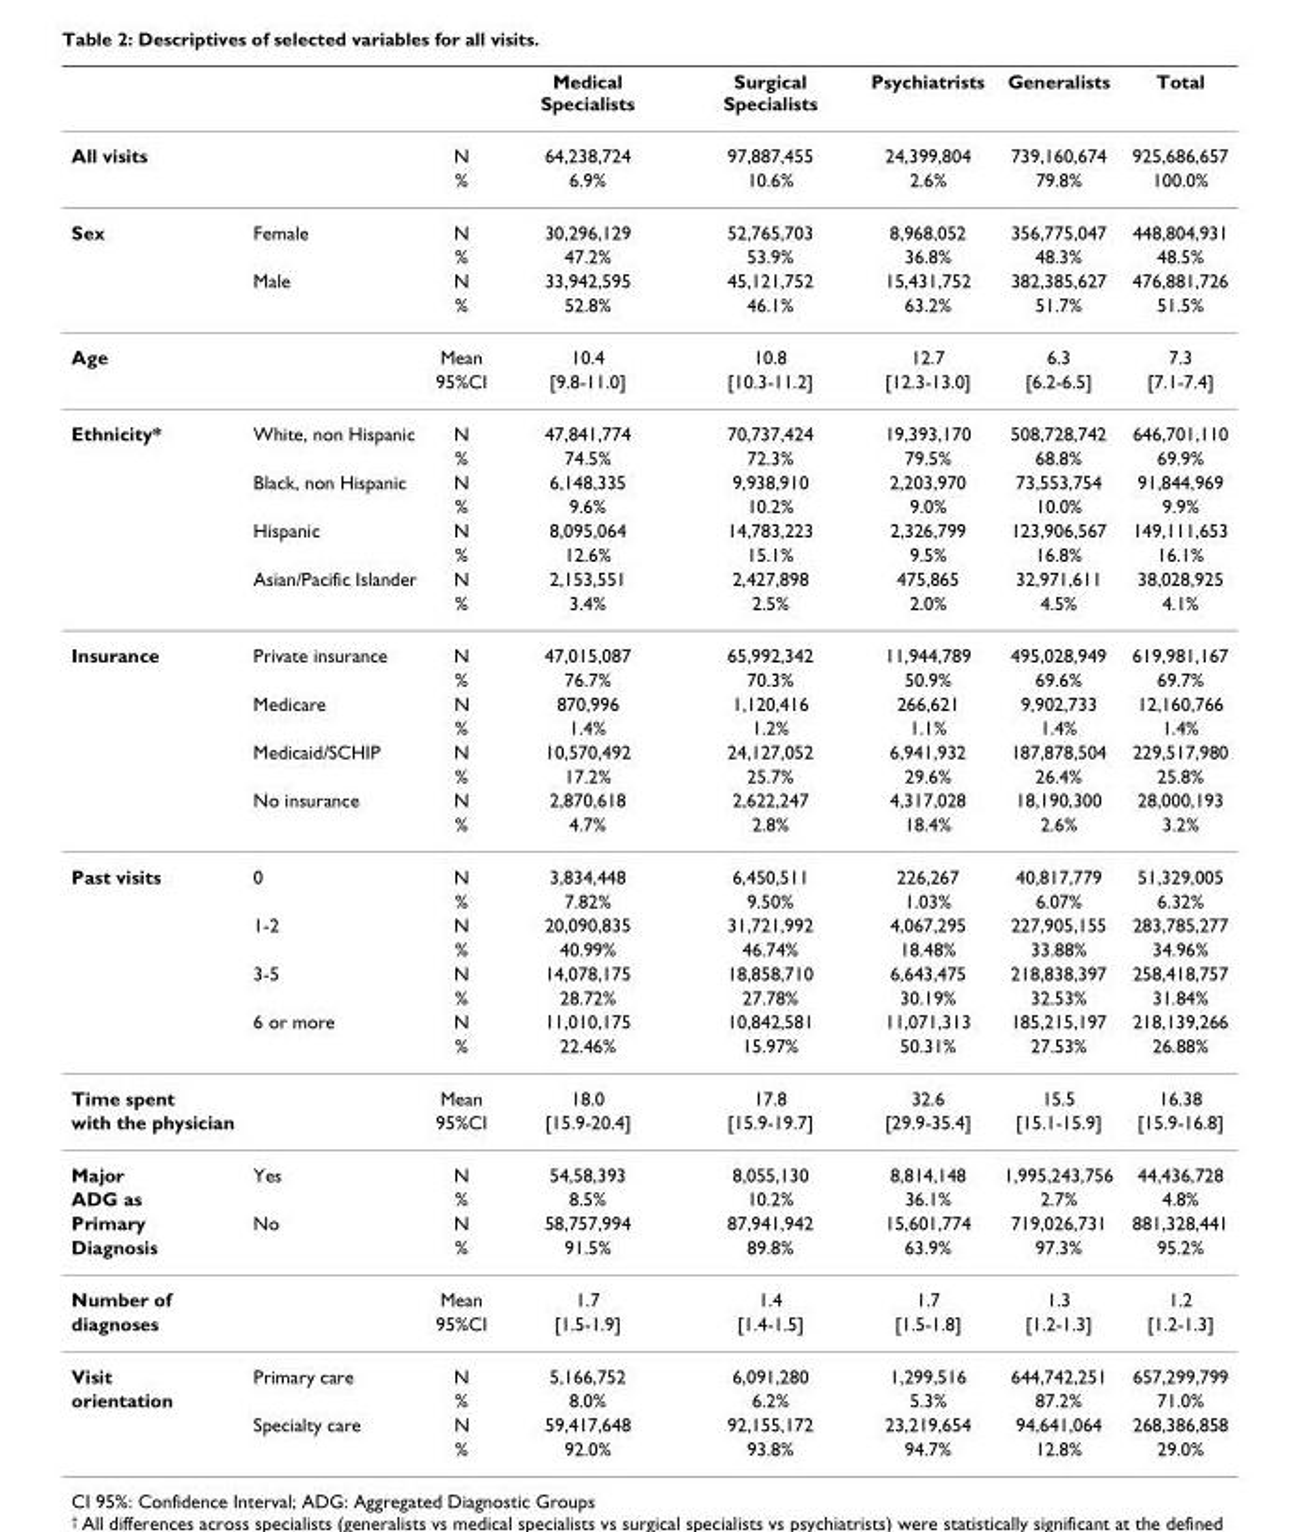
<table><thead><tr><td></td><td></td><td></td><td>Medical Specialists</td><td>Surgical Specialists</td><td>Psychiatrists</td><td>Generalists</td><td>Total</td></tr></thead><tbody><tr><td rowspan="2">All visits</td><td></td><td>N</td><td>64,238,724</td><td>97,887,455</td><td>24,399,804</td><td>739,160,674</td><td>925,686,657</td></tr><tr><td></td><td>%</td><td>6.9%</td><td>10.6%</td><td>2.6%</td><td>79.8%</td><td>100.0%</td></tr><tr><td rowspan="4">Sex</td><td>Female</td><td>N</td><td>30,296,129</td><td>52,765,703</td><td>8,968,052</td><td>356,775,047</td><td>448,804,931</td></tr><tr><td></td><td>%</td><td>47.2%</td><td>53.9%</td><td>36.8%</td><td>48.3%</td><td>48.5%</td></tr><tr><td>Male</td><td>N</td><td>33,942,595</td><td>45,121,752</td><td>15,431,752</td><td>382,385,627</td><td>476,881,726</td></tr><tr><td></td><td>%</td><td>52.8%</td><td>46.1%</td><td>63.2%</td><td>51.7%</td><td>51.5%</td></tr><tr><td rowspan="2">Age</td><td></td><td>Mean</td><td>10.4</td><td>10.8</td><td>12.7</td><td>6.3</td><td>7.3</td></tr><tr><td></td><td>95%CI</td><td>[9.8-11.0]</td><td>[10.3-11.2]</td><td>[12.3-13.0]</td><td>[6.2-6.5]</td><td>[7.1-7.4]</td></tr><tr><td rowspan="8">Ethnicity*</td><td>White, non Hispanic</td><td>N</td><td>47,841,774</td><td>70,737,424</td><td>19,393,170</td><td>508,728,742</td><td>646,701,110</td></tr><tr><td></td><td>%</td><td>74.5%</td><td>72.3%</td><td>79.5%</td><td>68.8%</td><td>69.9%</td></tr><tr><td>Black, non Hispanic</td><td>N</td><td>6,148,335</td><td>9,938,910</td><td>2,203,970</td><td>73,553,754</td><td>91,844,969</td></tr><tr><td></td><td>%</td><td>9.6%</td><td>10.2%</td><td>9.0%</td><td>10.0%</td><td>9.9%</td></tr><tr><td>Hispanic</td><td>N</td><td>8,095,064</td><td>14,783,223</td><td>2,326,799</td><td>123,906,567</td><td>149,111,653</td></tr><tr><td></td><td>%</td><td>12.6%</td><td>15.1%</td><td>9.5%</td><td>16.8%</td><td>16.1%</td></tr><tr><td>Asian/Pacific Islander</td><td>N</td><td>2,153,551</td><td>2,427,898</td><td>475,865</td><td>32,971,611</td><td>38,028,925</td></tr><tr><td></td><td>%</td><td>3.4%</td><td>2.5%</td><td>2.0%</td><td>4.5%</td><td>4.1%</td></tr><tr><td rowspan="8">Insurance</td><td>Private insurance</td><td>N</td><td>47,015,087</td><td>65,992,342</td><td>11,944,789</td><td>495,028,949</td><td>619,981,167</td></tr><tr><td></td><td>%</td><td>76.7%</td><td>70.3%</td><td>50.9%</td><td>69.6%</td><td>69.7%</td></tr><tr><td>Medicare</td><td>N</td><td>870,996</td><td>1,120,416</td><td>266,621</td><td>9,902,733</td><td>12,160,766</td></tr><tr><td></td><td>%</td><td>1.4%</td><td>1.2%</td><td>1.1%</td><td>1.4%</td><td>1.4%</td></tr><tr><td>Medicaid/SCHIP</td><td>N</td><td>10,570,492</td><td>24,127,052</td><td>6,941,932</td><td>187,878,504</td><td>229,517,980</td></tr><tr><td></td><td>%</td><td>17.2%</td><td>25.7%</td><td>29.6%</td><td>26.4%</td><td>25.8%</td></tr><tr><td>No insurance</td><td>N</td><td>2,870,618</td><td>2,622,247</td><td>4,317,028</td><td>18,190,300</td><td>28,000,193</td></tr><tr><td></td><td>%</td><td>4.7%</td><td>2.8%</td><td>18.4%</td><td>2.6%</td><td>3.2%</td></tr><tr><td rowspan="8">Past visits</td><td>0</td><td>N</td><td>3,834,448</td><td>6,450,511</td><td>226,267</td><td>40,817,779</td><td>51,329,005</td></tr><tr><td></td><td>%</td><td>7.82%</td><td>9.50%</td><td>1.03%</td><td>6.07%</td><td>6.32%</td></tr><tr><td>1-2</td><td>N</td><td>20,090,835</td><td>31,721,992</td><td>4,067,295</td><td>227,905,155</td><td>283,785,277</td></tr><tr><td></td><td>%</td><td>40.99%</td><td>46.74%</td><td>18.48%</td><td>33.88%</td><td>34.96%</td></tr><tr><td>3-5</td><td>N</td><td>14,078,175</td><td>18,858,710</td><td>6,643,475</td><td>218,838,397</td><td>258,418,757</td></tr><tr><td></td><td>%</td><td>28.72%</td><td>27.78%</td><td>30.19%</td><td>32.53%</td><td>31.84%</td></tr><tr><td>6 or more</td><td>N</td><td>11,010,175</td><td>10,842,581</td><td>11,071,313</td><td>185,215,197</td><td>218,139,266</td></tr><tr><td></td><td>%</td><td>22.46%</td><td>15.97%</td><td>50.31%</td><td>27.53%</td><td>26.88%</td></tr><tr><td>Time spent</td><td></td><td>Mean</td><td>18.0</td><td>17.8</td><td>32.6</td><td>15.5</td><td>16.38</td></tr><tr><td>with the physician</td><td></td><td>95%CI</td><td>[15.9-20.4]</td><td>[15.9-19.7]</td><td>[29.9-35.4]</td><td>[15.1-15.9]</td><td>[15.9-16.8]</td></tr><tr><td>Major</td><td>Yes</td><td>N</td><td>54,58,393</td><td>8,055,130</td><td>8,814,148</td><td>1,995,243,756</td><td>44,436,728</td></tr><tr><td>ADG as</td><td></td><td>%</td><td>8.5%</td><td>10.2%</td><td>36.1%</td><td>2.7%</td><td>4.8%</td></tr><tr><td>Primary</td><td>No</td><td>N</td><td>58,757,994</td><td>87,941,942</td><td>15,601,774</td><td>719,026,731</td><td>881,328,441</td></tr><tr><td>Diagnosis</td><td></td><td>%</td><td>91.5%</td><td>89.8%</td><td>63.9%</td><td>97.3%</td><td>95.2%</td></tr><tr><td>Number of</td><td></td><td>Mean</td><td>1.7</td><td>1.4</td><td>1.7</td><td>1.3</td><td>1.2</td></tr><tr><td>diagnoses</td><td></td><td>95%CI</td><td>[1.5-1.9]</td><td>[1.4-1.5]</td><td>[1.5-1.8]</td><td>[1.2-1.3]</td><td>[1.2-1.3]</td></tr><tr><td>Visit</td><td>Primary care</td><td>N</td><td>5,166,752</td><td>6,091,280</td><td>1,299,516</td><td>644,742,251</td><td>657,299,799</td></tr><tr><td rowspan="3">orientation</td><td></td><td>%</td><td>8.0%</td><td>6.2%</td><td>5.3%</td><td>87.2%</td><td>71.0%</td></tr><tr><td>Specialty care</td><td>N</td><td>59,417,648</td><td>92,155,172</td><td>23,219,654</td><td>94,641,064</td><td>268,386,858</td></tr><tr><td></td><td>%</td><td>92.0%</td><td>93.8%</td><td>94.7%</td><td>12.8%</td><td>29.0%</td></tr></tbody></table>